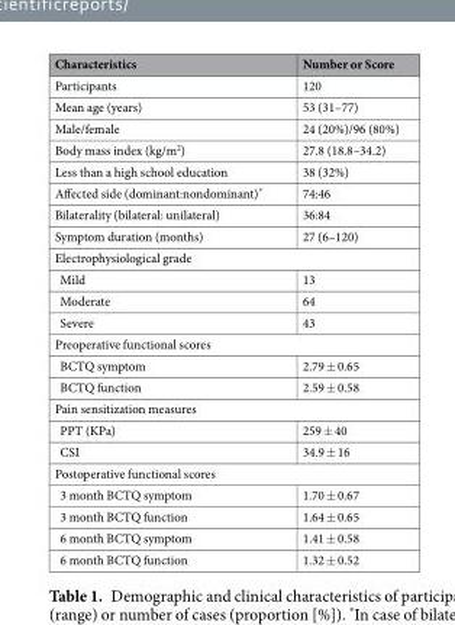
<table><thead><tr><td>Characteristics</td><td>Number or Score</td></tr></thead><tbody><tr><td>Participants</td><td>120</td></tr><tr><td>Mean age (years)</td><td>53 (31–77)</td></tr><tr><td>Male/female</td><td>24 (20%)/96 (80%)</td></tr><tr><td>Body mass index (kg/m<sup>2</sup>)</td><td>27.8 (18.8–34.2)</td></tr><tr><td>Less than a high school education</td><td>38 (32%)</td></tr><tr><td>Affected side (dominant:nondominant)*</td><td>74:46</td></tr><tr><td>Bilaterality (bilateral: unilateral)</td><td>36:84</td></tr><tr><td>Symptom duration (months)</td><td>27 (6–120)</td></tr><tr><td colspan="2">Electrophysiological grade</td></tr><tr><td>Mild</td><td>13</td></tr><tr><td>Moderate</td><td>64</td></tr><tr><td>Severe</td><td>43</td></tr><tr><td colspan="2">Preoperative functional scores</td></tr><tr><td>BCTQ symptom</td><td>2.79 ± 0.65</td></tr><tr><td>BCTQ function</td><td>2.59 ± 0.58</td></tr><tr><td colspan="2">Pain sensitization measures</td></tr><tr><td>PPT (KPa)</td><td>259 ± 40</td></tr><tr><td>CSI</td><td>34.9 ± 16</td></tr><tr><td colspan="2">Postoperative functional scores</td></tr><tr><td>3 month BCTQ symptom</td><td>1.70 ± 0.67</td></tr><tr><td>3 month BCTQ function</td><td>1.64 ± 0.65</td></tr><tr><td>6 month BCTQ symptom</td><td>1.41 ± 0.58</td></tr><tr><td>6 month BCTQ function</td><td>1.32 ± 0.52</td></tr></tbody></table>